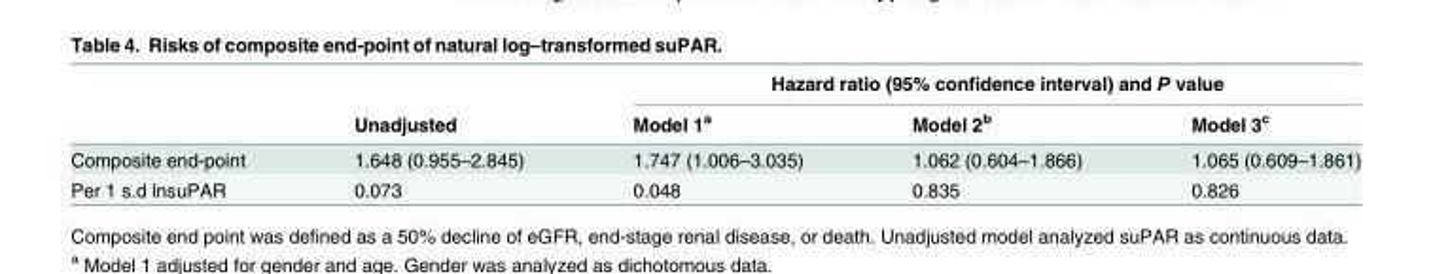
<table><thead><tr><td rowspan="2"></td><td rowspan="2">Unadjusted</td><td colspan="3">Hazard ratio (95% confidence interval) and P value</td></tr><tr><td>Model 1<sup>a</sup></td><td>Model 2<sup>b</sup></td><td>Model 3<sup>c</sup></td></tr></thead><tbody><tr><td>Composite end-point</td><td>1.648 (0.955–2.845)</td><td>1.747 (1.006–3.035)</td><td>1.062 (0.604–1.866)</td><td>1.065 (0.609–1.861)</td></tr><tr><td>Per 1 s.d lnsuPAR</td><td>0.073</td><td>0.048</td><td>0.835</td><td>0.826</td></tr></tbody></table>